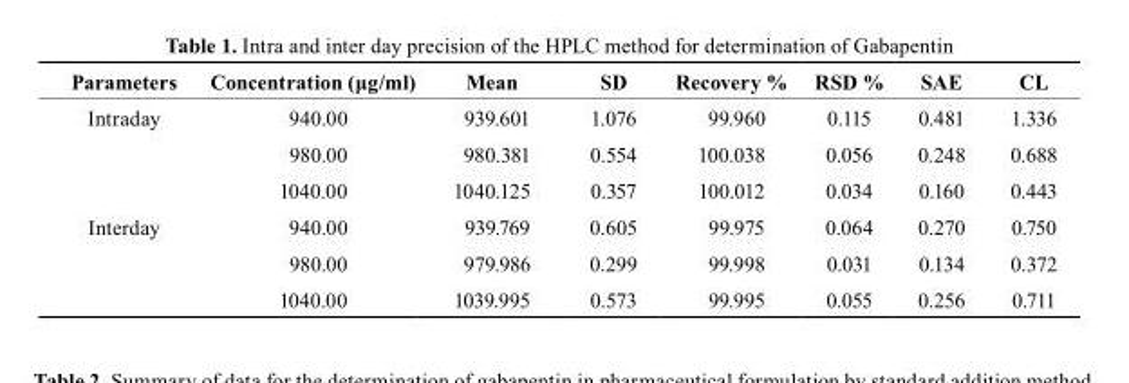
<table><thead><tr><td>Parameters</td><td>Concentration (μg/ml)</td><td>Mean</td><td>SD</td><td>Recovery %</td><td>RSD %</td><td>sAE</td><td>cL</td></tr></thead><tbody><tr><td rowspan="3">Intraday</td><td>940.00</td><td>939.601</td><td>1.076</td><td>99.960</td><td>0.115</td><td>0.481</td><td>1.336</td></tr><tr><td>980.00</td><td>980.381</td><td>0.554</td><td>100.038</td><td>0.056</td><td>0.248</td><td>0.688</td></tr><tr><td>1040.00</td><td>1040.125</td><td>0.357</td><td>100.012</td><td>0.034</td><td>0.160</td><td>0.443</td></tr><tr><td rowspan="3">Interday</td><td>940.00</td><td>939.769</td><td>0.605</td><td>99.975</td><td>0.064</td><td>0.270</td><td>0.750</td></tr><tr><td>980.00</td><td>979.986</td><td>0.299</td><td>99.998</td><td>0.031</td><td>0.134</td><td>0.372</td></tr><tr><td>1040.00</td><td>1039.995</td><td>0.573</td><td>99.995</td><td>0.055</td><td>0.256</td><td>0.711</td></tr></tbody></table>